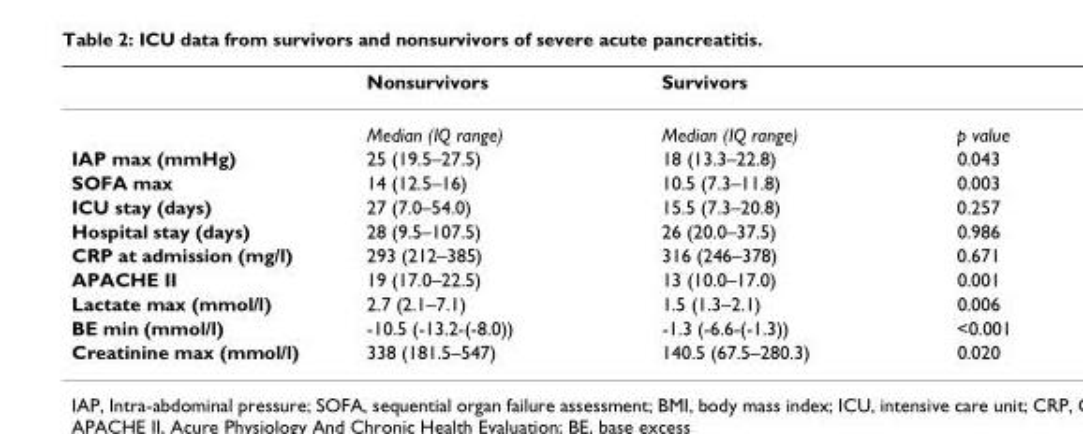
<table><thead><tr><td></td><td>Nonsurvivors</td><td>Survivors</td><td></td></tr></thead><tbody><tr><td></td><td>Median (IQ range)</td><td>Median (IQ range)</td><td>p value</td></tr><tr><td>IAP max (mmHg)</td><td>25 (19.5–27.5)</td><td>18 (13.3–22.8)</td><td>0.043</td></tr><tr><td>SOFA max</td><td>14 (12.5–16)</td><td>10.5 (7.3–11.8)</td><td>0.003</td></tr><tr><td>ICU stay (days)</td><td>27 (7.0–54.0)</td><td>15.5 (7.3–20.8)</td><td>0.257</td></tr><tr><td>Hospital stay (days)</td><td>28 (9.5–107.5)</td><td>26 (20.0–37.5)</td><td>0.986</td></tr><tr><td>CRP at admission (mg/l)</td><td>293 (212–385)</td><td>316 (246–378)</td><td>0.671</td></tr><tr><td>APACHE II</td><td>19 (17.0–22.5)</td><td>13 (10.0–17.0)</td><td>0.001</td></tr><tr><td>Lactate max (mmol/l)</td><td>2.7 (2.1–7.1)</td><td>1.5 (1.3–2.1)</td><td>0.006</td></tr><tr><td>BE min (mmol/l)</td><td>-10.5 (-13.2-(-8.0))</td><td>-1.3 (-6.6-(-1.3))</td><td>&lt;0.001</td></tr><tr><td>Creatinine max (mmol/l)</td><td>338 (181.5–547)</td><td>140.5 (67.5–280.3)</td><td>0.020</td></tr></tbody></table>